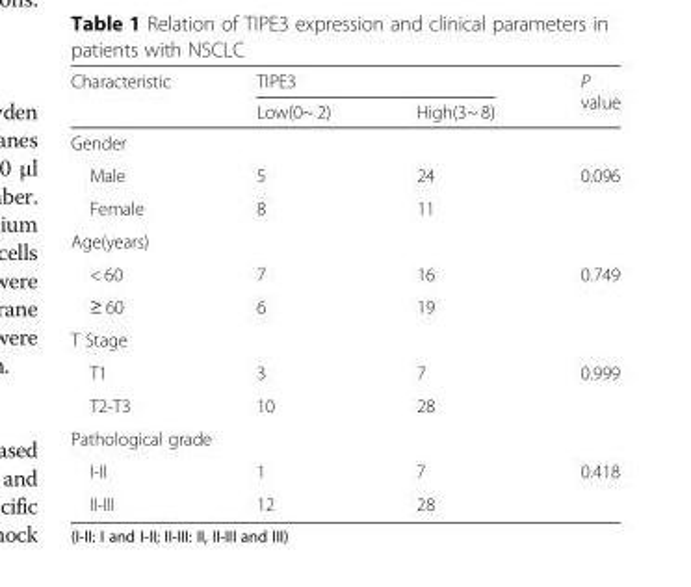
<table><thead><tr><td rowspan="2">Characteristic</td><td colspan="2">TIPE3</td><td rowspan="2">P value</td></tr><tr><td>Low(0~ 2)</td><td>High(3~ 8)</td></tr></thead><tbody><tr><td colspan="4">Gender</td></tr><tr><td>Male</td><td>5</td><td>24</td><td rowspan="2">0.096</td></tr><tr><td>Female</td><td>8</td><td>11</td></tr><tr><td colspan="4">Age(years)</td></tr><tr><td>&lt; 60</td><td>7</td><td>16</td><td rowspan="2">0.749</td></tr><tr><td>≥ 60</td><td>6</td><td>19</td></tr><tr><td colspan="4">T Stage</td></tr><tr><td>T1</td><td>3</td><td>7</td><td rowspan="2">0.999</td></tr><tr><td>T2-T3</td><td>10</td><td>28</td></tr><tr><td colspan="4">Pathological grade</td></tr><tr><td>I-II</td><td>1</td><td>7</td><td rowspan="2">0.418</td></tr><tr><td>II-III</td><td>12</td><td>28</td></tr></tbody></table>